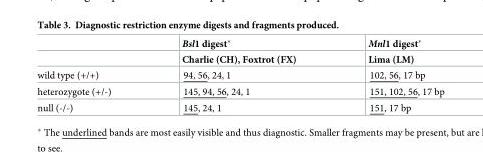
<table><thead><tr><td rowspan="2"></td><td rowspan="2">Bsl1 digest* Charlie (CH), Foxtrot (FX)</td><td rowspan="2">Mnl1 digest* Lima (LM)</td></tr><tr></tr></thead><tbody><tr><td>wild type (+/+)</td><td>94, 56, 24, 1</td><td>102, 56, 17 bp</td></tr><tr><td>heterozygote (+/-)</td><td>145, 94, 56, 24, 1</td><td>151, 102, 56, 17 bp</td></tr><tr><td>null (-/-)</td><td>145, 24, 1</td><td>151, 17 bp</td></tr></tbody></table>